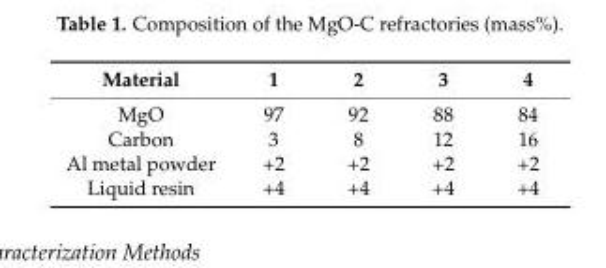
<table><thead><tr><td>Material</td><td>1</td><td>2</td><td>3</td><td>4</td></tr></thead><tbody><tr><td>MgO</td><td>97</td><td>92</td><td>88</td><td>84</td></tr><tr><td>Carbon</td><td>3</td><td>8</td><td>12</td><td>16</td></tr><tr><td>Al metal powder</td><td>+2</td><td>+2</td><td>+2</td><td>+2</td></tr><tr><td>Liquid resin</td><td>+4</td><td>+4</td><td>+4</td><td>+4</td></tr></tbody></table>